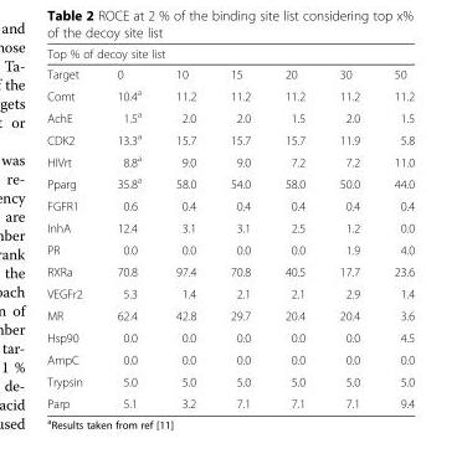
<table><thead><tr><td colspan="7">Top % of decoy site list</td></tr><tr><td>Target</td><td>0</td><td>10</td><td>15</td><td>20</td><td>30</td><td>50</td></tr></thead><tbody><tr><td>Comt</td><td>10.4<sup>a</sup></td><td>11.2</td><td>11.2</td><td>11.2</td><td>11.2</td><td>11.2</td></tr><tr><td>AchE</td><td>1.5<sup>a</sup></td><td>2.0</td><td>2.0</td><td>1.5</td><td>2.0</td><td>1.5</td></tr><tr><td>CDK2</td><td>13.3<sup>a</sup></td><td>15.7</td><td>15.7</td><td>15.7</td><td>11.9</td><td>5.8</td></tr><tr><td>HIVrt</td><td>8.8<sup>a</sup></td><td>9.0</td><td>9.0</td><td>7.2</td><td>7.2</td><td>11.0</td></tr><tr><td>Pparg</td><td>35.8<sup>a</sup></td><td>58.0</td><td>54.0</td><td>58.0</td><td>50.0</td><td>44.0</td></tr><tr><td>FGFR1</td><td>0.6</td><td>0.4</td><td>0.4</td><td>0.4</td><td>0.4</td><td>0.4</td></tr><tr><td>InhA</td><td>12.4</td><td>3.1</td><td>3.1</td><td>2.5</td><td>1.2</td><td>0.0</td></tr><tr><td>PR</td><td>0.0</td><td>0.0</td><td>0.0</td><td>0.0</td><td>1.9</td><td>4.0</td></tr><tr><td>RXRa</td><td>70.8</td><td>97.4</td><td>70.8</td><td>40.5</td><td>17.7</td><td>23.6</td></tr><tr><td>VEGFr2</td><td>5.3</td><td>1.4</td><td>2.1</td><td>2.1</td><td>2.9</td><td>1.4</td></tr><tr><td>MR</td><td>62.4</td><td>42.8</td><td>29.7</td><td>20.4</td><td>20.4</td><td>3.6</td></tr><tr><td>Hsp90</td><td>0.0</td><td>0.0</td><td>0.0</td><td>0.0</td><td>0.0</td><td>4.5</td></tr><tr><td>AmpC</td><td>0.0</td><td>0.0</td><td>0.0</td><td>0.0</td><td>0.0</td><td>0.0</td></tr><tr><td>Trypsin</td><td>5.0</td><td>5.0</td><td>5.0</td><td>5.0</td><td>5.0</td><td>5.0</td></tr><tr><td>Parp</td><td>5.1</td><td>3.2</td><td>7.1</td><td>7.1</td><td>7.1</td><td>9.4</td></tr></tbody></table>